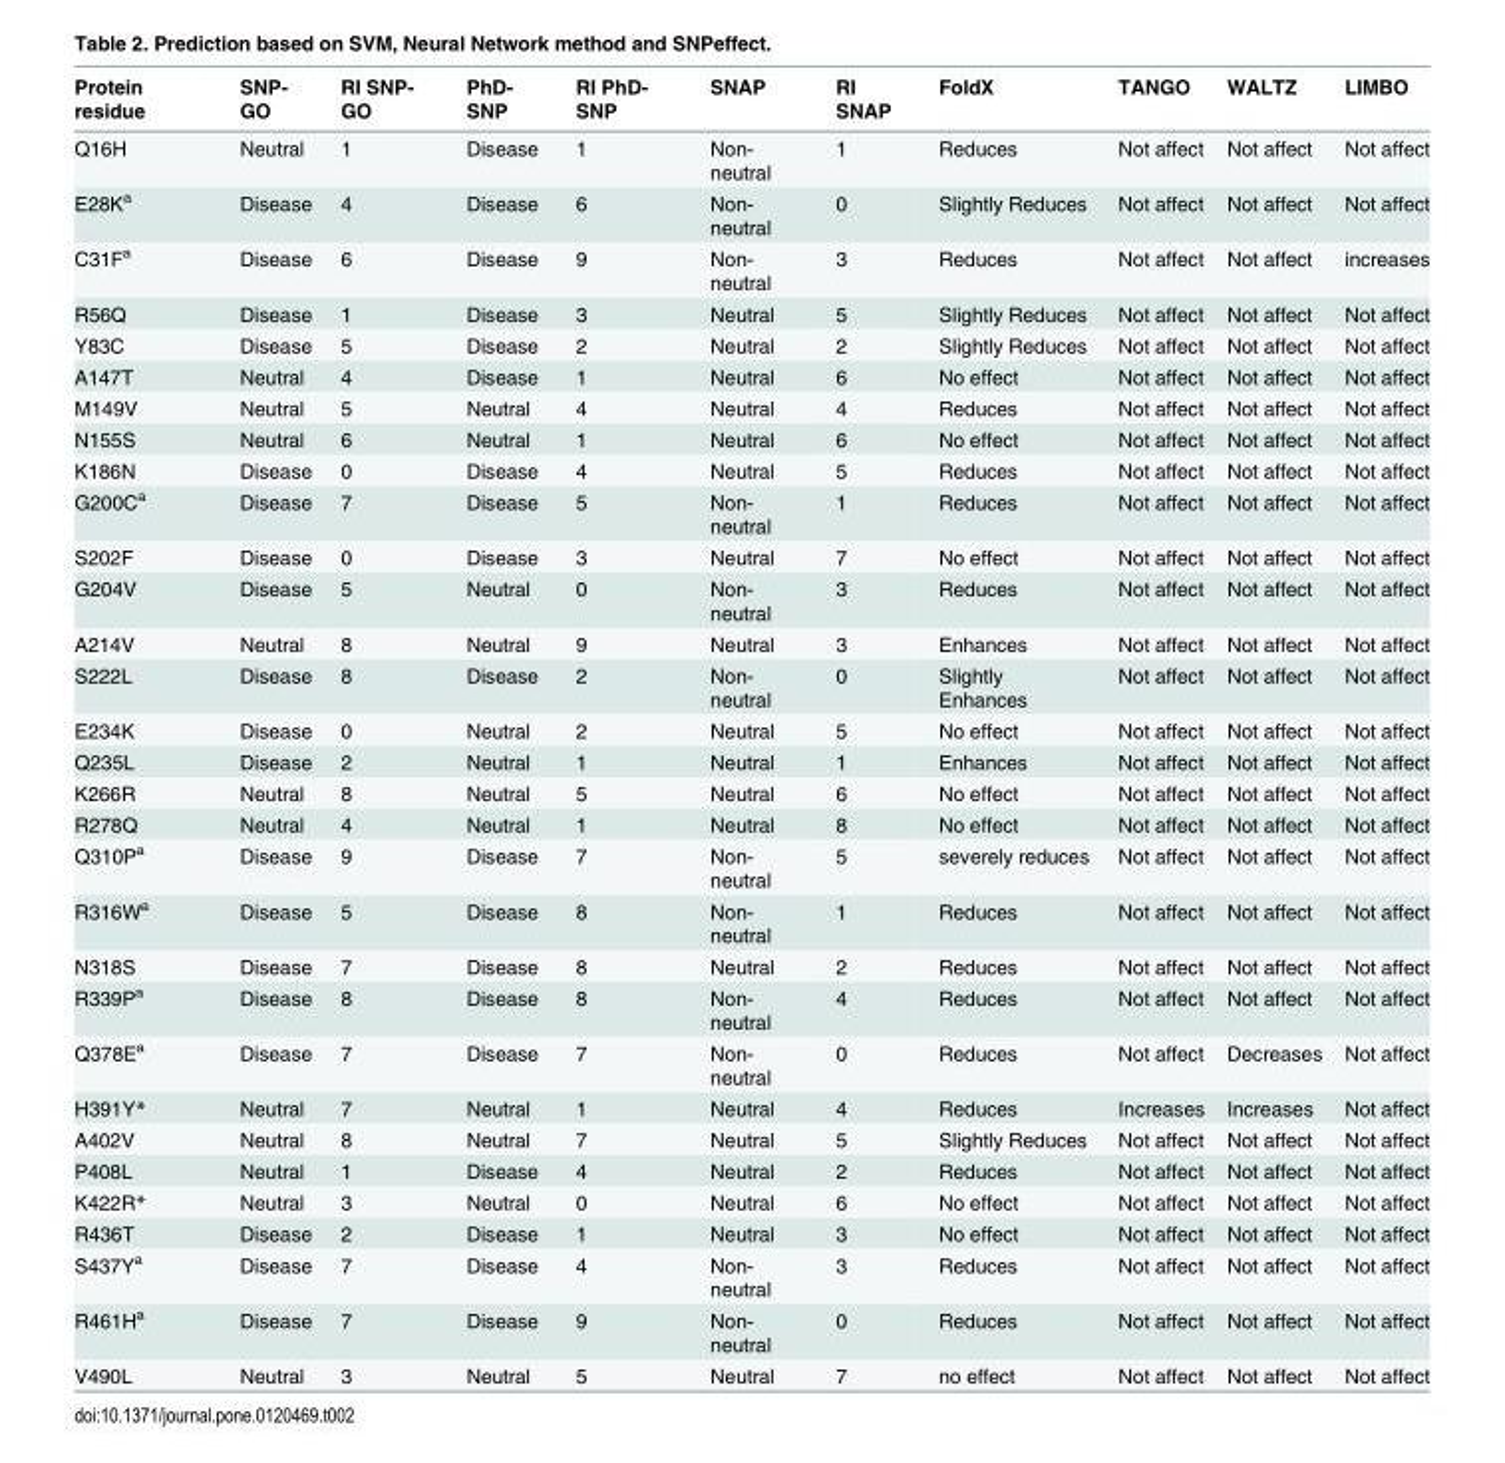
<table><thead><tr><td>Protein residue</td><td>SNP- GO</td><td>RI SNP- GO</td><td>PhD- SNP</td><td>RI PhD- SNP</td><td>SNAP</td><td>RI SNAP</td><td>FoldX</td><td>TANGO</td><td>WALTZ</td><td>LIMBO</td></tr></thead><tbody><tr><td>Q16H</td><td>Neutral</td><td>1</td><td>Disease</td><td>1</td><td>Non- neutral</td><td>1</td><td>Reduces</td><td>Not affect</td><td>Not affect</td><td>Not affect</td></tr><tr><td>E28K<sup>a</sup></td><td>Disease</td><td>4</td><td>Disease</td><td>6</td><td>Non- neutral</td><td>0</td><td>Slightly Reduces</td><td>Not affect</td><td>Not affect</td><td>Not affect</td></tr><tr><td>C31F<sup>a</sup></td><td>Disease</td><td>6</td><td>Disease</td><td>9</td><td>Non- neutral</td><td>3</td><td>Reduces</td><td>Not affect</td><td>Not affect</td><td>increases</td></tr><tr><td>R56Q</td><td>Disease</td><td>1</td><td>Disease</td><td>3</td><td>Neutral</td><td>5</td><td>Slightly Reduces</td><td>Not affect</td><td>Not affect</td><td>Not affect</td></tr><tr><td>Y83C</td><td>Disease</td><td>5</td><td>Disease</td><td>2</td><td>Neutral</td><td>2</td><td>Slightly Reduces</td><td>Not affect</td><td>Not affect</td><td>Not affect</td></tr><tr><td>A147T</td><td>Neutral</td><td>4</td><td>Disease</td><td>1</td><td>Neutral</td><td>6</td><td>No effect</td><td>Not affect</td><td>Not affect</td><td>Not affect</td></tr><tr><td>M149V</td><td>Neutral</td><td>5</td><td>Neutral</td><td>4</td><td>Neutral</td><td>4</td><td>Reduces</td><td>Not affect</td><td>Not affect</td><td>Not affect</td></tr><tr><td>N155S</td><td>Neutral</td><td>6</td><td>Neutral</td><td>1</td><td>Neutral</td><td>6</td><td>No effect</td><td>Not affect</td><td>Not affect</td><td>Not affect</td></tr><tr><td>K186N</td><td>Disease</td><td>0</td><td>Disease</td><td>4</td><td>Neutral</td><td>5</td><td>Reduces</td><td>Not affect</td><td>Not affect</td><td>Not affect</td></tr><tr><td>G200C<sup>a</sup></td><td>Disease</td><td>7</td><td>Disease</td><td>5</td><td>Non- neutral</td><td>1</td><td>Reduces</td><td>Not affect</td><td>Not affect</td><td>Not affect</td></tr><tr><td>S202F</td><td>Disease</td><td>0</td><td>Disease</td><td>3</td><td>Neutral</td><td>7</td><td>No effect</td><td>Not affect</td><td>Not affect</td><td>Not affect</td></tr><tr><td>G204V</td><td>Disease</td><td>5</td><td>Neutral</td><td>0</td><td>Non- neutral</td><td>3</td><td>Reduces</td><td>Not affect</td><td>Not affect</td><td>Not affect</td></tr><tr><td>A214V</td><td>Neutral</td><td>8</td><td>Neutral</td><td>9</td><td>Neutral</td><td>3</td><td>Enhances</td><td>Not affect</td><td>Not affect</td><td>Not affect</td></tr><tr><td>S222L</td><td>Disease</td><td>8</td><td>Disease</td><td>2</td><td>Non- neutral</td><td>0</td><td>Slightly Enhances</td><td>Not affect</td><td>Not affect</td><td>Not affect</td></tr><tr><td>E234K</td><td>Disease</td><td>0</td><td>Neutral</td><td>2</td><td>Neutral</td><td>5</td><td>No effect</td><td>Not affect</td><td>Not affect</td><td>Not affect</td></tr><tr><td>Q235L</td><td>Disease</td><td>2</td><td>Neutral</td><td>1</td><td>Neutral</td><td>1</td><td>Enhances</td><td>Not affect</td><td>Not affect</td><td>Not affect</td></tr><tr><td>K266R</td><td>Neutral</td><td>8</td><td>Neutral</td><td>5</td><td>Neutral</td><td>6</td><td>No effect</td><td>Not affect</td><td>Not affect</td><td>Not affect</td></tr><tr><td>R278Q</td><td>Neutral</td><td>4</td><td>Neutral</td><td>1</td><td>Neutral</td><td>8</td><td>No effect</td><td>Not affect</td><td>Not affect</td><td>Not affect</td></tr><tr><td>Q310P<sup>a</sup></td><td>Disease</td><td>9</td><td>Disease</td><td>7</td><td>Non- neutral</td><td>5</td><td>severely reduces</td><td>Not affect</td><td>Not affect</td><td>Not affect</td></tr><tr><td>R316W<sup>a</sup></td><td>Disease</td><td>5</td><td>Disease</td><td>8</td><td>Non- neutral</td><td>1</td><td>Reduces</td><td>Not affect</td><td>Not affect</td><td>Not affect</td></tr><tr><td>N318S</td><td>Disease</td><td>7</td><td>Disease</td><td>8</td><td>Neutral</td><td>2</td><td>Reduces</td><td>Not affect</td><td>Not affect</td><td>Not affect</td></tr><tr><td>R339P<sup>a</sup></td><td>Disease</td><td>8</td><td>Disease</td><td>8</td><td>Non- neutral</td><td>4</td><td>Reduces</td><td>Not affect</td><td>Not affect</td><td>Not affect</td></tr><tr><td>Q378E<sup>a</sup></td><td>Disease</td><td>7</td><td>Disease</td><td>7</td><td>Non- neutral</td><td>0</td><td>Reduces</td><td>Not affect</td><td>Decreases</td><td>Not affect</td></tr><tr><td>H391Y*</td><td>Neutral</td><td>7</td><td>Neutral</td><td>1</td><td>Neutral</td><td>4</td><td>Reduces</td><td>Increases</td><td>Increases</td><td>Not affect</td></tr><tr><td>A402V</td><td>Neutral</td><td>8</td><td>Neutral</td><td>7</td><td>Neutral</td><td>5</td><td>Slightly Reduces</td><td>Not affect</td><td>Not affect</td><td>Not affect</td></tr><tr><td>P408L</td><td>Neutral</td><td>1</td><td>Disease</td><td>4</td><td>Neutral</td><td>2</td><td>Reduces</td><td>Not affect</td><td>Not affect</td><td>Not affect</td></tr><tr><td>K422R*</td><td>Neutral</td><td>3</td><td>Neutral</td><td>0</td><td>Neutral</td><td>6</td><td>No effect</td><td>Not affect</td><td>Not affect</td><td>Not affect</td></tr><tr><td>R436T</td><td>Disease</td><td>2</td><td>Disease</td><td>1</td><td>Neutral</td><td>3</td><td>No effect</td><td>Not affect</td><td>Not affect</td><td>Not affect</td></tr><tr><td>S437Y<sup>a</sup></td><td>Disease</td><td>7</td><td>Disease</td><td>4</td><td>Non- neutral</td><td>3</td><td>Reduces</td><td>Not affect</td><td>Not affect</td><td>Not affect</td></tr><tr><td>R461H<sup>a</sup></td><td>Disease</td><td>7</td><td>Disease</td><td>9</td><td>Non- neutral</td><td>0</td><td>Reduces</td><td>Not affect</td><td>Not affect</td><td>Not affect</td></tr><tr><td>V490L</td><td>Neutral</td><td>3</td><td>Neutral</td><td>5</td><td>Neutral</td><td>7</td><td>no effect</td><td>Not affect</td><td>Not affect</td><td>Not affect</td></tr></tbody></table>